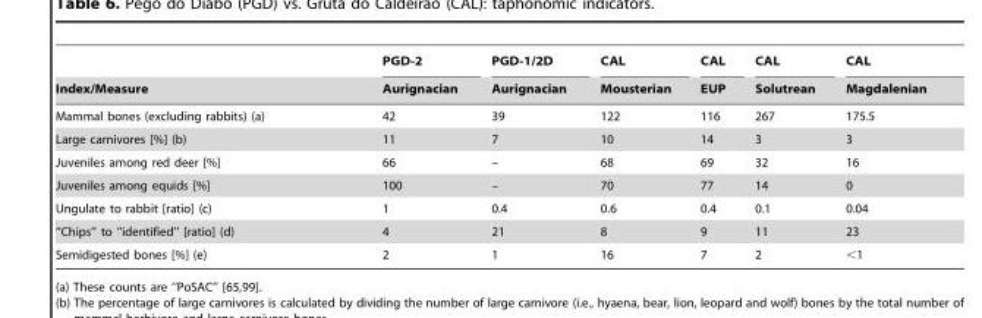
<table><thead><tr><td rowspan="2">Index/Measure</td><td rowspan="2">PGD-2 Aurignacian</td><td rowspan="2">PGD-1/2D Aurignacian</td><td rowspan="2">CAL Mousterian</td><td rowspan="2">CAL EUP</td><td rowspan="2">CAL Solutrean</td><td rowspan="2">CAL Magdalenian</td></tr><tr></tr></thead><tbody><tr><td>Mammal bones (excluding rabbits) (a)</td><td>42</td><td>39</td><td>122</td><td>116</td><td>267</td><td>175.5</td></tr><tr><td>Large carnivores [%] (b)</td><td>11</td><td>7</td><td>10</td><td>14</td><td>3</td><td>3</td></tr><tr><td>Juveniles among red deer [%]</td><td>66</td><td>–</td><td>68</td><td>69</td><td>32</td><td>16</td></tr><tr><td>Juveniles among equids [%]</td><td>100</td><td>–</td><td>70</td><td>77</td><td>14</td><td>0</td></tr><tr><td>Ungulate to rabbit [ratio] (c)</td><td>1</td><td>0.4</td><td>0.6</td><td>0.4</td><td>0.1</td><td>0.04</td></tr><tr><td>‘‘Chips’’ to ‘‘identified’’ [ratio] (d)</td><td>4</td><td>21</td><td>8</td><td>9</td><td>11</td><td>23</td></tr><tr><td>Semidigested bones [%] (e)</td><td>2</td><td>1</td><td>16</td><td>7</td><td>2</td><td>&lt;1</td></tr></tbody></table>